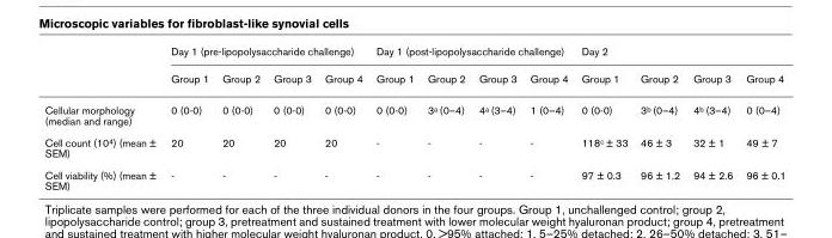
<table><thead><tr><td rowspan="2"></td><td colspan="4">Day 1 (pre-lipopolysaccharide challenge)</td><td colspan="4">Day 1 (post-lipopolysaccharide challenge)</td><td colspan="4">Day 2</td></tr><tr><td>Group 1</td><td>Group 2</td><td>Group 3</td><td>Group 4</td><td>Group 1</td><td>Group 2</td><td>Group 3</td><td>Group 4</td><td>Group 1</td><td>Group 2</td><td>Group 3</td><td>Group 4</td></tr></thead><tbody><tr><td>Cellular morphology (median and range)</td><td>0 (0-0)</td><td>0 (0-0)</td><td>0 (0-0)</td><td>0 (0-0)</td><td>0 (0-0)</td><td>3a (0–4)</td><td>4a (3–4)</td><td>1 (0–4)</td><td>0 (0-0)</td><td>3b (0–4)</td><td>4b (3–4)</td><td>0 (0–4)</td></tr><tr><td>Cell count (104) (mean ± SEM)</td><td>20</td><td>20</td><td>20</td><td>20</td><td>-</td><td>-</td><td>-</td><td>-</td><td>118c ± 33</td><td>46 ± 3</td><td>32 ± 1</td><td>49 ± 7</td></tr><tr><td>Cell viability (%) (mean ± SEM)</td><td>-</td><td>-</td><td>-</td><td>-</td><td>-</td><td>-</td><td>-</td><td>-</td><td>97 ± 0.3</td><td>96 ± 1.2</td><td>94 ± 2.6</td><td>96 ± 0.1</td></tr></tbody></table>